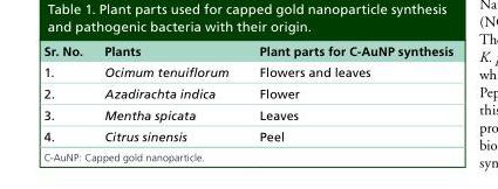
<table><thead><tr><td>Sr. No.</td><td>Plants</td><td>Plant parts for C-AuNP synthesis</td></tr></thead><tbody><tr><td>1.</td><td>Ocimum tenuiflorum</td><td>Flowers and leaves</td></tr><tr><td>2.</td><td>Azadirachta indica</td><td>Flower</td></tr><tr><td>3.</td><td>Mentha spicata</td><td>Leaves</td></tr><tr><td>4.</td><td>Citrus sinensis</td><td>Peel</td></tr></tbody></table>